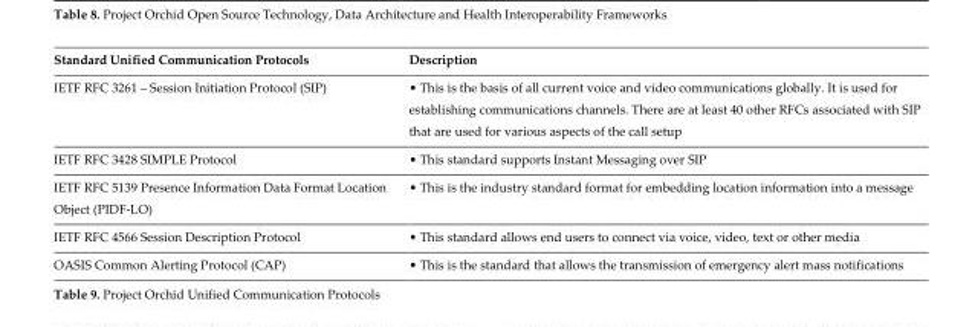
<table><thead><tr><td>Standard Unified Communication Protocols</td><td>Description</td></tr></thead><tbody><tr><td>IETF RFC 3261 – Session Initiation Protocol (SIP)</td><td>• This is the basis of all current voice and video communications globally. It is used for establishing communications channels. There are at least 40 other RFCs associated with SIP that are used for various aspects of the call setup</td></tr><tr><td>IETF RFC 3428 SIMPLE Protocol</td><td>• This standard supports Instant Messaging over SIP</td></tr><tr><td>IETF RFC 5139 Presence Information Data Format Location Object (PIDF-LO)</td><td>• This is the industry standard format for embedding location information into a message</td></tr><tr><td>IETF RFC 4566 Session Description Protocol</td><td>• This standard allows end users to connect via voice, video, text or other media</td></tr><tr><td>OASIS Common Alerting Protocol (CAP)</td><td>• This is the standard that allows the transmission of emergency alert mass notifications</td></tr></tbody></table>